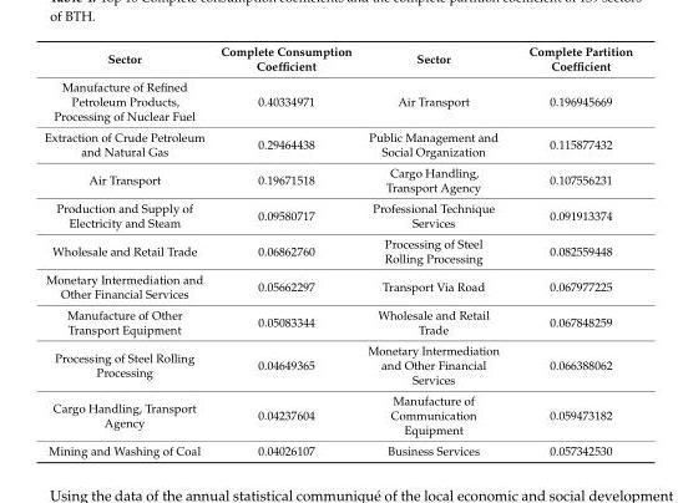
<table><thead><tr><td>Sector</td><td>Complete Consumption Coefficient</td><td>Sector</td><td>Complete Partition Coefficient</td></tr></thead><tbody><tr><td>Manufacture of Refined Petroleum Products, Processing of Nuclear Fuel</td><td>0.40334971</td><td>Air Transport</td><td>0.196945669</td></tr><tr><td>Extraction of Crude Petroleum and Natural Gas</td><td>0.29464438</td><td>Public Management and Social Organization</td><td>0.115877432</td></tr><tr><td>Air Transport</td><td>0.19671518</td><td>Cargo Handling, Transport Agency</td><td>0.107556231</td></tr><tr><td>Production and Supply of Electricity and Steam</td><td>0.09580717</td><td>Professional Technique Services</td><td>0.091913374</td></tr><tr><td>Wholesale and Retail Trade</td><td>0.06862760</td><td>Processing of Steel Rolling Processing</td><td>0.082559448</td></tr><tr><td>Monetary Intermediation and Other Financial Services</td><td>0.05662297</td><td>Transport Via Road</td><td>0.067977225</td></tr><tr><td>Manufacture of Other Transport Equipment</td><td>0.05083344</td><td>Wholesale and Retail Trade</td><td>0.067848259</td></tr><tr><td>Processing of Steel Rolling Processing</td><td>0.04649365</td><td>Monetary Intermediation and Other Financial Services</td><td>0.066388062</td></tr><tr><td>Cargo Handling, Transport Agency</td><td>0.04237604</td><td>Manufacture of Communication Equipment</td><td>0.059473182</td></tr><tr><td>Mining and Washing of Coal</td><td>0.04026107</td><td>Business Services</td><td>0.057342530</td></tr></tbody></table>